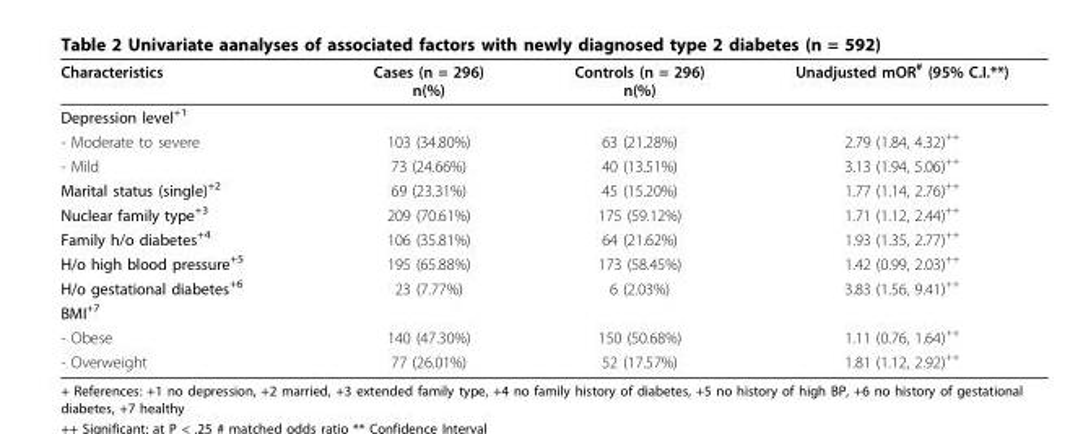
<table><thead><tr><td>Characteristics</td><td>Cases (n = 296) n(%)</td><td>Controls (n = 296) n(%)</td><td>Unadjusted mOR<sup>#</sup> (95% C.I.**)</td></tr></thead><tbody><tr><td colspan="4">Depression level<sup>+1</sup></td></tr><tr><td>- Moderate to severe</td><td>103 (34.80%)</td><td>63 (21.28%)</td><td>2.79 (1.84, 4.32)<sup>++</sup></td></tr><tr><td>- Mild</td><td>73 (24.66%)</td><td>40 (13.51%)</td><td>3.13 (1.94, 5.06)<sup>++</sup></td></tr><tr><td>Marital status (single)<sup>+2</sup></td><td>69 (23.31%)</td><td>45 (15.20%)</td><td>1.77 (1.14, 2.76)<sup>++</sup></td></tr><tr><td>Nuclear family type<sup>+3</sup></td><td>209 (70.61%)</td><td>175 (59.12%)</td><td>1.71 (1.12, 2.44)<sup>++</sup></td></tr><tr><td>Family h/o diabetes<sup>+4</sup></td><td>106 (35.81%)</td><td>64 (21.62%)</td><td>1.93 (1.35, 2.77)<sup>++</sup></td></tr><tr><td>H/o high blood pressure<sup>+5</sup></td><td>195 (65.88%)</td><td>173 (58.45%)</td><td>1.42 (0.99, 2.03)<sup>++</sup></td></tr><tr><td>H/o gestational diabetes<sup>+6</sup></td><td>23 (7.77%)</td><td>6 (2.03%)</td><td>3.83 (1.56, 9.41)<sup>++</sup></td></tr><tr><td colspan="4">BMI<sup>+7</sup></td></tr><tr><td>- Obese</td><td>140 (47.30%)</td><td>150 (50.68%)</td><td>1.11 (0.76, 1.64)<sup>++</sup></td></tr><tr><td>- Overweight</td><td>77 (26.01%)</td><td>52 (17.57%)</td><td>1.81 (1.12, 2.92)<sup>++</sup></td></tr></tbody></table>